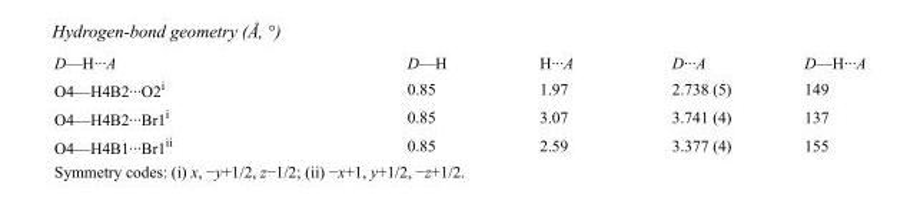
<table><tbody><tr><td>D—H···A</td><td>D—H</td><td>H···A</td><td>D···A</td><td>D—H···A</td></tr><tr><td>O4—H4B2···O2<sup>i</sup></td><td>0.85</td><td>1.97</td><td>2.738 (5)</td><td>149</td></tr><tr><td>O4—H4B2···Br1<sup>i</sup></td><td>0.85</td><td>3.07</td><td>3.741 (4)</td><td>137</td></tr><tr><td>O4—H4B1···Br1<sup>ii</sup></td><td>0.85</td><td>2.59</td><td>3.377 (4)</td><td>155</td></tr></tbody></table>